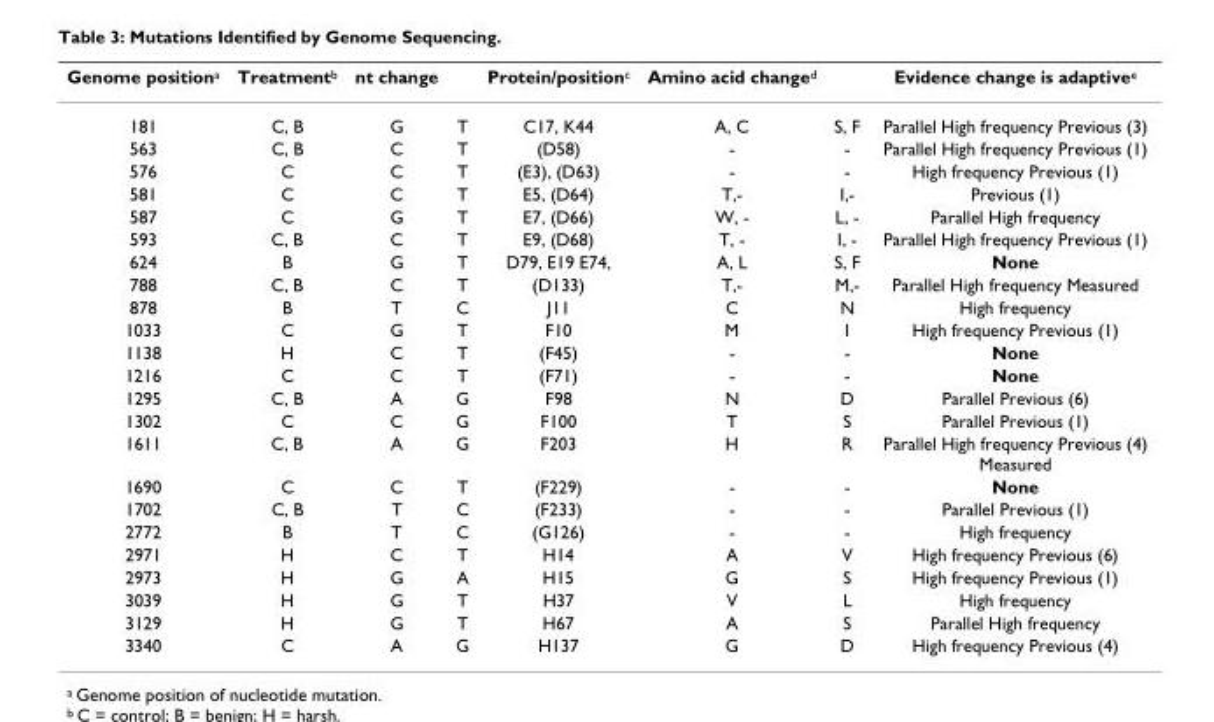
<table><thead><tr><td>Genome position<sup>a</sup></td><td>Treatment<sup>b</sup></td><td>nt change</td><td></td><td>Protein/position<sup>c</sup></td><td>Amino acid change<sup>d</sup></td><td></td><td>Evidence change is adaptive<sup>e</sup></td></tr></thead><tbody><tr><td>181</td><td>C, B</td><td>G</td><td>T</td><td>C17, K44</td><td>A, C</td><td>S, F</td><td>Parallel High frequency Previous (3)</td></tr><tr><td>563</td><td>C, B</td><td>C</td><td>T</td><td>(D58)</td><td>-</td><td>-</td><td>Parallel High frequency Previous (1)</td></tr><tr><td>576</td><td>C</td><td>C</td><td>T</td><td>(E3), (D63)</td><td>-</td><td>-</td><td>High frequency Previous (1)</td></tr><tr><td>581</td><td>C</td><td>C</td><td>T</td><td>E5, (D64)</td><td>T,-</td><td>I,-</td><td>Previous (1)</td></tr><tr><td>587</td><td>C</td><td>G</td><td>T</td><td>E7, (D66)</td><td>W, -</td><td>L, -</td><td>Parallel High frequency</td></tr><tr><td>593</td><td>C, B</td><td>C</td><td>T</td><td>E9, (D68)</td><td>T, -</td><td>I, -</td><td>Parallel High frequency Previous (1)</td></tr><tr><td>624</td><td>B</td><td>G</td><td>T</td><td>D79, E19 E74,</td><td>A, L</td><td>S, F</td><td>None</td></tr><tr><td>788</td><td>C, B</td><td>C</td><td>T</td><td>(D133)</td><td>T,-</td><td>M,-</td><td>Parallel High frequency Measured</td></tr><tr><td>878</td><td>B</td><td>T</td><td>C</td><td>J11</td><td>C</td><td>N</td><td>High frequency</td></tr><tr><td>1033</td><td>C</td><td>G</td><td>T</td><td>F10</td><td>M</td><td>I</td><td>High frequency Previous (1)</td></tr><tr><td>1138</td><td>H</td><td>C</td><td>T</td><td>(F45)</td><td>-</td><td>-</td><td>None</td></tr><tr><td>1216</td><td>C</td><td>C</td><td>T</td><td>(F71)</td><td>-</td><td>-</td><td>None</td></tr><tr><td>1295</td><td>C, B</td><td>A</td><td>G</td><td>F98</td><td>N</td><td>D</td><td>Parallel Previous (6)</td></tr><tr><td>1302</td><td>C</td><td>C</td><td>G</td><td>F100</td><td>T</td><td>S</td><td>Parallel Previous (1)</td></tr><tr><td>1611</td><td>C, B</td><td>A</td><td>G</td><td>F203</td><td>H</td><td>R</td><td>Parallel High frequency Previous (4) Measured</td></tr><tr><td>1690</td><td>C</td><td>C</td><td>T</td><td>(F229)</td><td>-</td><td>-</td><td>None</td></tr><tr><td>1702</td><td>C, B</td><td>T</td><td>C</td><td>(F233)</td><td>-</td><td>-</td><td>Parallel Previous (1)</td></tr><tr><td>2772</td><td>B</td><td>T</td><td>C</td><td>(G126)</td><td>-</td><td>-</td><td>High frequency</td></tr><tr><td>2971</td><td>H</td><td>C</td><td>T</td><td>H14</td><td>A</td><td>V</td><td>High frequency Previous (6)</td></tr><tr><td>2973</td><td>H</td><td>G</td><td>A</td><td>H15</td><td>G</td><td>S</td><td>High frequency Previous (1)</td></tr><tr><td>3039</td><td>H</td><td>G</td><td>T</td><td>H37</td><td>V</td><td>L</td><td>High frequency</td></tr><tr><td>3129</td><td>H</td><td>G</td><td>T</td><td>H67</td><td>A</td><td>S</td><td>Parallel High frequency</td></tr><tr><td>3340</td><td>C</td><td>A</td><td>G</td><td>H137</td><td>G</td><td>D</td><td>High frequency Previous (4)</td></tr></tbody></table>